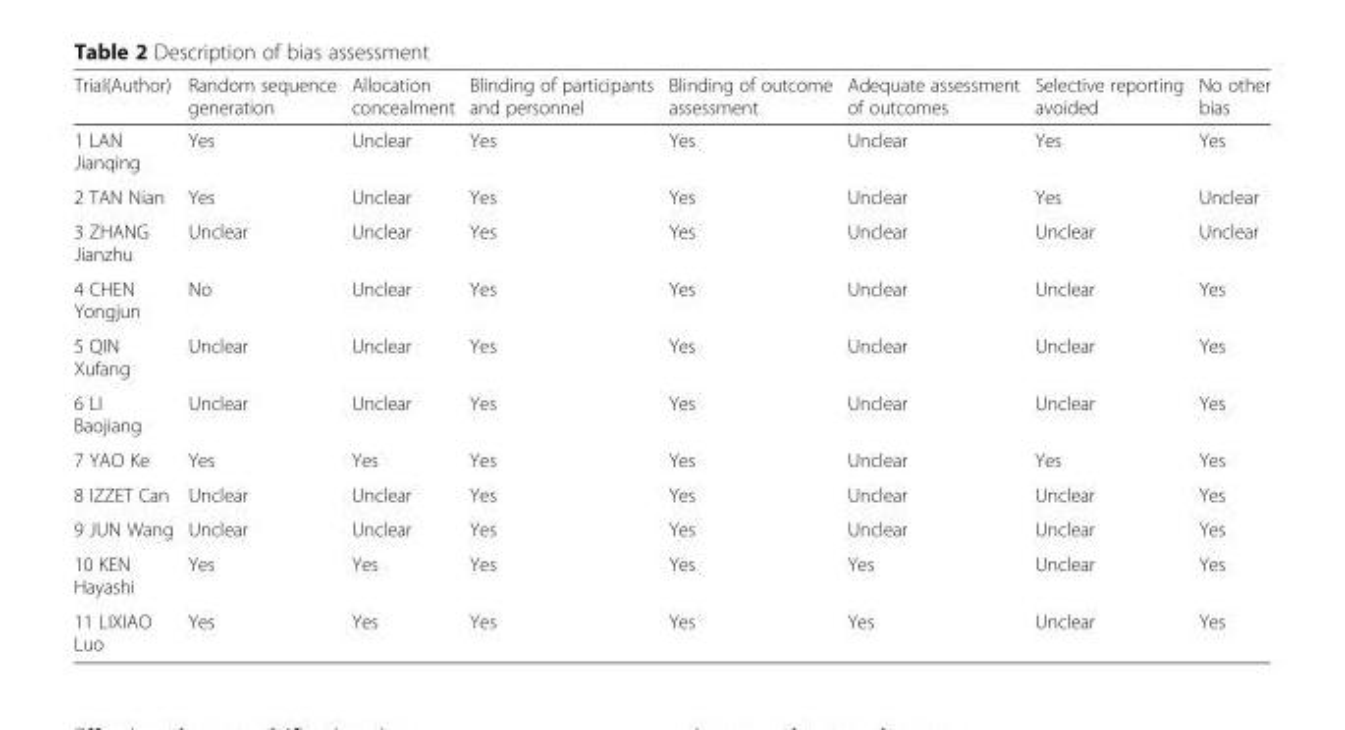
<table><thead><tr><td>Trial(Author)</td><td>Random sequence generation</td><td>Allocation concealment</td><td>Blinding of participants and personnel</td><td>Blinding of outcome assessment</td><td>Adequate assessment of outcomes</td><td>Selective reporting avoided</td><td>No other bias</td></tr></thead><tbody><tr><td>1 LAN Jianqing</td><td>Yes</td><td>Unclear</td><td>Yes</td><td>Yes</td><td>Unclear</td><td>Yes</td><td>Yes</td></tr><tr><td>2 TAN Nian</td><td>Yes</td><td>Unclear</td><td>Yes</td><td>Yes</td><td>Unclear</td><td>Yes</td><td>Unclear</td></tr><tr><td>3 ZHANG Jianzhu</td><td>Unclear</td><td>Unclear</td><td>Yes</td><td>Yes</td><td>Unclear</td><td>Unclear</td><td>Unclear</td></tr><tr><td>4 CHEN Yongjun</td><td>No</td><td>Unclear</td><td>Yes</td><td>Yes</td><td>Unclear</td><td>Unclear</td><td>Yes</td></tr><tr><td>5 QIN Xufang</td><td>Unclear</td><td>Unclear</td><td>Yes</td><td>Yes</td><td>Unclear</td><td>Unclear</td><td>Yes</td></tr><tr><td>6 LI Baojiang</td><td>Unclear</td><td>Unclear</td><td>Yes</td><td>Yes</td><td>Unclear</td><td>Unclear</td><td>Yes</td></tr><tr><td>7 YAO Ke</td><td>Yes</td><td>Yes</td><td>Yes</td><td>Yes</td><td>Unclear</td><td>Yes</td><td>Yes</td></tr><tr><td>8 IZZET Can</td><td>Unclear</td><td>Unclear</td><td>Yes</td><td>Yes</td><td>Unclear</td><td>Unclear</td><td>Yes</td></tr><tr><td>9 JUN Wang</td><td>Unclear</td><td>Unclear</td><td>Yes</td><td>Yes</td><td>Unclear</td><td>Unclear</td><td>Yes</td></tr><tr><td>10 KEN Hayashi</td><td>Yes</td><td>Yes</td><td>Yes</td><td>Yes</td><td>Yes</td><td>Unclear</td><td>Yes</td></tr><tr><td>11 LIXIAO Luo</td><td>Yes</td><td>Yes</td><td>Yes</td><td>Yes</td><td>Yes</td><td>Unclear</td><td>Yes</td></tr></tbody></table>